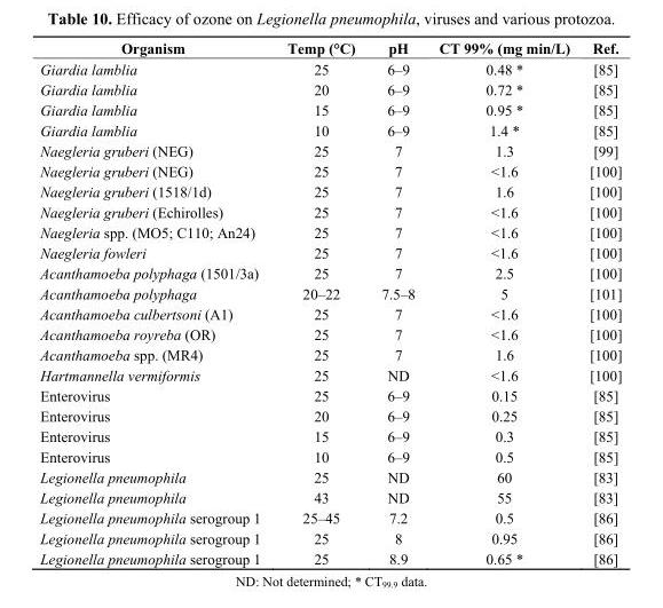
<table><thead><tr><td>Organism</td><td>Temp (°C)</td><td>pH</td><td>CT 99% (mg min/L)</td><td>Ref.</td></tr></thead><tbody><tr><td>Giardia lamblia</td><td>25</td><td>6–9</td><td>0.48 *</td><td>[85]</td></tr><tr><td>Giardia lamblia</td><td>20</td><td>6–9</td><td>0.72 *</td><td>[85]</td></tr><tr><td>Giardia lamblia</td><td>15</td><td>6–9</td><td>0.95 *</td><td>[85]</td></tr><tr><td>Giardia lamblia</td><td>10</td><td>6–9</td><td>1.4 *</td><td>[85]</td></tr><tr><td>Naegleria gruberi (NEG)</td><td>25</td><td>7</td><td>1.3</td><td>[99]</td></tr><tr><td>Naegleria gruberi (NEG)</td><td>25</td><td>7</td><td>&lt;1.6</td><td>[100]</td></tr><tr><td>Naegleria gruberi (1518/1d)</td><td>25</td><td>7</td><td>1.6</td><td>[100]</td></tr><tr><td>Naegleria gruberi (Echirolles)</td><td>25</td><td>7</td><td>&lt;1.6</td><td>[100]</td></tr><tr><td>Naegleria spp. (MO5; C110; An24)</td><td>25</td><td>7</td><td>&lt;1.6</td><td>[100]</td></tr><tr><td>Naegleria fowleri</td><td>25</td><td>7</td><td>&lt;1.6</td><td>[100]</td></tr><tr><td>Acanthamoeba polyphaga (1501/3a)</td><td>25</td><td>7</td><td>2.5</td><td>[100]</td></tr><tr><td>Acanthamoeba polyphaga</td><td>20–22</td><td>7.5–8</td><td>5</td><td>[101]</td></tr><tr><td>Acanthamoeba culbertsoni (A1)</td><td>25</td><td>7</td><td>&lt;1.6</td><td>[100]</td></tr><tr><td>Acanthamoeba royreba (OR)</td><td>25</td><td>7</td><td>&lt;1.6</td><td>[100]</td></tr><tr><td>Acanthamoeba spp. (MR4)</td><td>25</td><td>7</td><td>1.6</td><td>[100]</td></tr><tr><td>Hartmannella vermiformis</td><td>25</td><td>ND</td><td>&lt;1.6</td><td>[100]</td></tr><tr><td>Enterovirus</td><td>25</td><td>6–9</td><td>0.15</td><td>[85]</td></tr><tr><td>Enterovirus</td><td>20</td><td>6–9</td><td>0.25</td><td>[85]</td></tr><tr><td>Enterovirus</td><td>15</td><td>6–9</td><td>0.3</td><td>[85]</td></tr><tr><td>Enterovirus</td><td>10</td><td>6–9</td><td>0.5</td><td>[85]</td></tr><tr><td>Legionella pneumophila</td><td>25</td><td>ND</td><td>60</td><td>[83]</td></tr><tr><td>Legionella pneumophila</td><td>43</td><td>ND</td><td>55</td><td>[83]</td></tr><tr><td>Legionella pneumophila serogroup 1</td><td>25–45</td><td>7.2</td><td>0.5</td><td>[86]</td></tr><tr><td>Legionella pneumophila serogroup 1</td><td>25</td><td>8</td><td>0.95</td><td>[86]</td></tr><tr><td>Legionella pneumophila serogroup 1</td><td>25</td><td>8.9</td><td>0.65 *</td><td>[86]</td></tr></tbody></table>